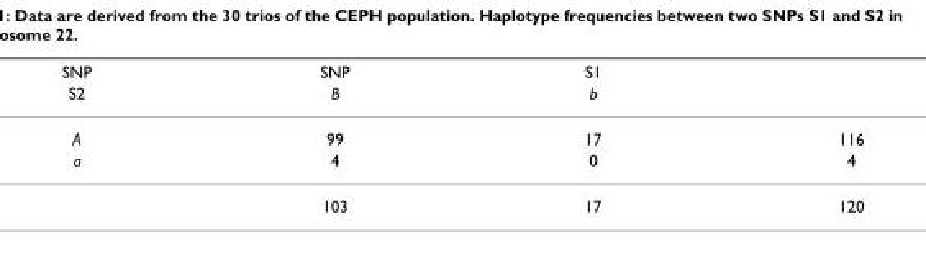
<table><thead><tr><td rowspan="2">SNP S2</td><td rowspan="2">SNP B</td><td rowspan="2">S1 b</td><td rowspan="2"></td></tr><tr></tr></thead><tbody><tr><td>A</td><td>99</td><td>17</td><td>116</td></tr><tr><td rowspan="2">a</td><td>4</td><td>0</td><td>4</td></tr><tr><td>103</td><td>17</td><td>120</td></tr></tbody></table>